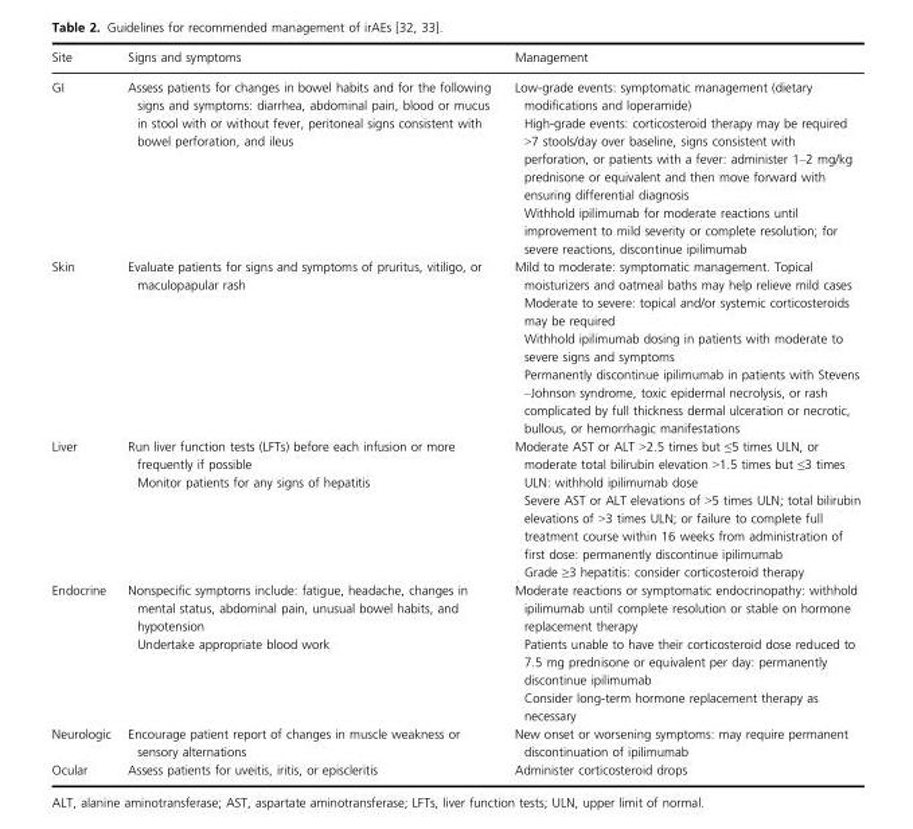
<table><thead><tr><td>Site</td><td>Signs and symptoms</td><td>Management</td></tr></thead><tbody><tr><td>GI</td><td>Assess patients for changes in bowel habits and for the following signs and symptoms: diarrhea, abdominal pain, blood or mucus in stool with or without fever, peritoneal signs consistent with bowel perforation, and ileus</td><td>Low-grade events: symptomatic management (dietary modifications and loperamide) High-grade events: corticosteroid therapy may be required &gt;7 stools/day over baseline, signs consistent with perforation, or patients with a fever: administer 1–2 mg/kg prednisone or equivalent and then move forward with ensuring differential diagnosis Withhold ipilimumab for moderate reactions until improvement to mild severity or complete resolution; for severe reactions, discontinue ipilimumab</td></tr><tr><td>Skin</td><td>Evaluate patients for signs and symptoms of pruritus, vitiligo, or maculopapular rash</td><td>Mild to moderate: symptomatic management. Topical moisturizers and oatmeal baths may help relieve mild cases Moderate to severe: topical and/or systemic corticosteroids may be required Withhold ipilimumab dosing in patients with moderate to severe signs and symptoms Permanently discontinue ipilimumab in patients with Stevens –Johnson syndrome, toxic epidermal necrolysis, or rash complicated by full thickness dermal ulceration or necrotic, bullous, or hemorrhagic manifestations</td></tr><tr><td>Liver</td><td>Run liver function tests (LFTs) before each infusion or more frequently if possible Monitor patients for any signs of hepatitis</td><td>Moderate AST or ALT &gt;2.5 times but ≤5 times ULN, or moderate total bilirubin elevation &gt;1.5 times but ≤3 times ULN: withhold ipilimumab dose Severe AST or ALT elevations of &gt;5 times ULN; total bilirubin elevations of &gt;3 times ULN; or failure to complete full treatment course within 16 weeks from administration of first dose: permanently discontinue ipilimumab Grade ≥3 hepatitis: consider corticosteroid therapy</td></tr><tr><td>Endocrine</td><td>Nonspecific symptoms include: fatigue, headache, changes in mental status, abdominal pain, unusual bowel habits, and hypotension Undertake appropriate blood work</td><td>Moderate reactions or symptomatic endocrinopathy: withhold ipilimumab until complete resolution or stable on hormone replacement therapy Patients unable to have their corticosteroid dose reduced to 7.5 mg prednisone or equivalent per day: permanently discontinue ipilimumab Consider long-term hormone replacement therapy as necessary</td></tr><tr><td>Neurologic</td><td>Encourage patient report of changes in muscle weakness or sensory alternations</td><td>New onset or worsening symptoms: may require permanent discontinuation of ipilimumab</td></tr><tr><td>Ocular</td><td>Assess patients for uveitis, iritis, or episcleritis</td><td>Administer corticosteroid drops</td></tr></tbody></table>